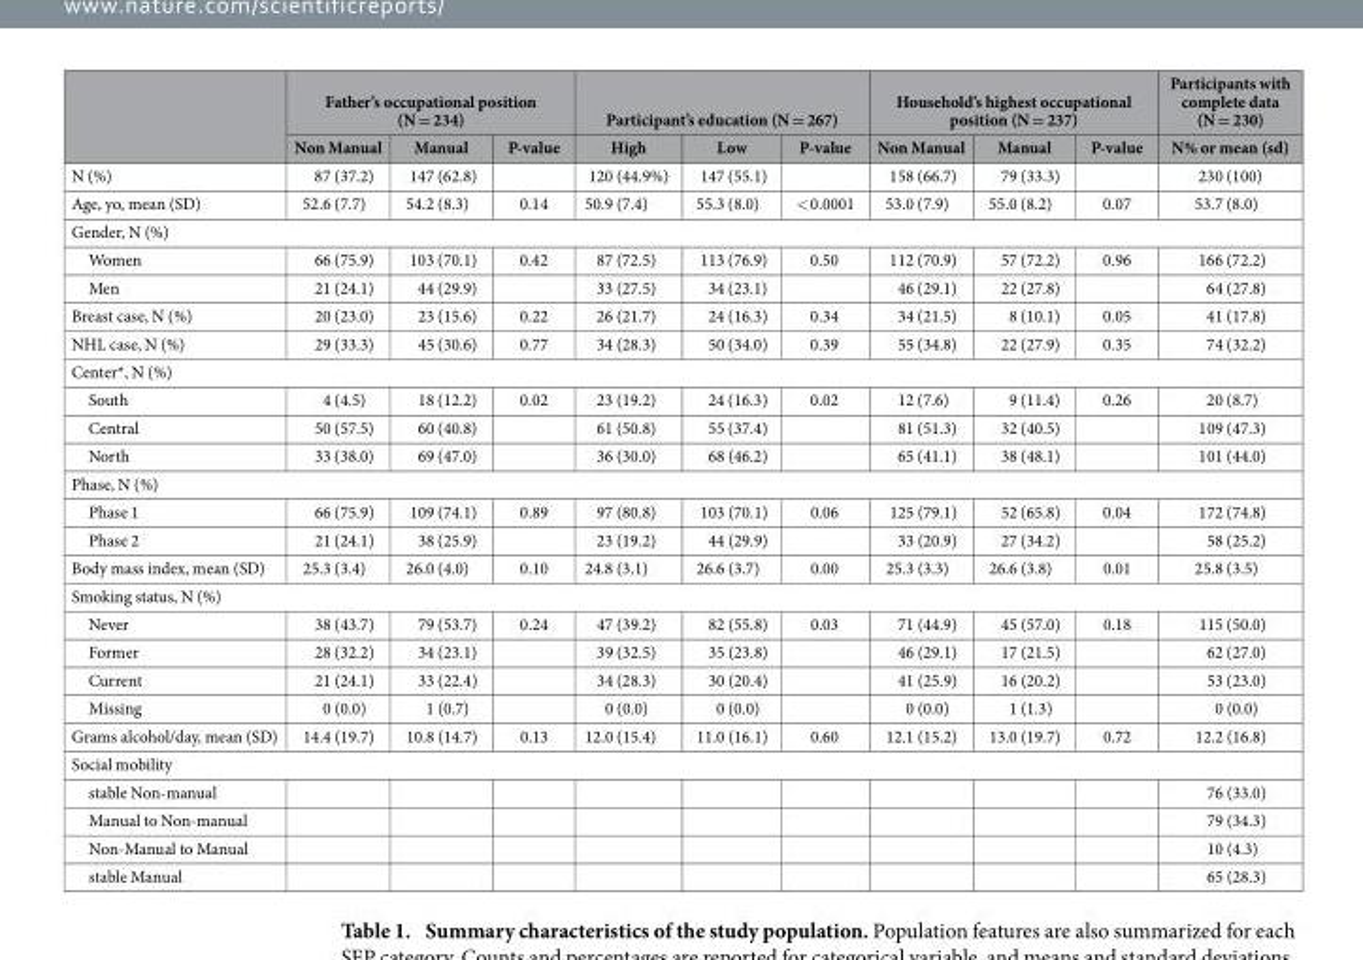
<table><thead><tr><td rowspan="2"></td><td colspan="3">Father’s occupational position (N = 234)</td><td colspan="3">Participant’s education (N = 267)</td><td colspan="3">Household’s highest occupational position (N = 237)</td><td rowspan="2">Participants with complete data (N = 230) N% or mean (sd)</td></tr><tr><td>Non Manual</td><td>Manual</td><td>P-value</td><td>High</td><td>Low</td><td>P-value</td><td>Non Manual</td><td>Manual</td><td>P-value</td></tr></thead><tbody><tr><td>N (%)</td><td>87 (37.2)</td><td>147 (62.8)</td><td></td><td>120 (44.9%)</td><td>147 (55.1)</td><td></td><td>158 (66.7)</td><td>79 (33.3)</td><td></td><td>230 (100)</td></tr><tr><td>Age, yo, mean (SD)</td><td>52.6 (7.7)</td><td>54.2 (8.3)</td><td>0.14</td><td>50.9 (7.4)</td><td>55.3 (8.0)</td><td>&lt; 0.0001</td><td>53.0 (7.9)</td><td>55.0 (8.2)</td><td>0.07</td><td>53.7 (8.0)</td></tr><tr><td colspan="11">Gender, N (%)</td></tr><tr><td>Women</td><td>66 (75.9)</td><td>103 (70.1)</td><td>0.42</td><td>87 (72.5)</td><td>113 (76.9)</td><td>0.50</td><td>112 (70.9)</td><td>57 (72.2)</td><td>0.96</td><td>166 (72.2)</td></tr><tr><td>Men</td><td>21 (24.1)</td><td>44 (29.9)</td><td></td><td>33 (27.5)</td><td>34 (23.1)</td><td></td><td>46 (29.1)</td><td>22 (27.8)</td><td></td><td>64 (27.8)</td></tr><tr><td>Breast case, N (%)</td><td>20 (23.0)</td><td>23 (15.6)</td><td>0.22</td><td>26 (21.7)</td><td>24 (16.3)</td><td>0.34</td><td>34 (21.5)</td><td>8 (10.1)</td><td>0.05</td><td>41 (17.8)</td></tr><tr><td>NHL case, N (%)</td><td>29 (33.3)</td><td>45 (30.6)</td><td>0.77</td><td>34 (28.3)</td><td>50 (34.0)</td><td>0.39</td><td>55 (34.8)</td><td>22 (27.9)</td><td>0.35</td><td>74 (32.2)</td></tr><tr><td colspan="11">Center*, N (%)</td></tr><tr><td>South</td><td>4 (4.5)</td><td>18 (12.2)</td><td>0.02</td><td>23 (19.2)</td><td>24 (16.3)</td><td>0.02</td><td>12 (7.6)</td><td>9 (11.4)</td><td>0.26</td><td>20 (8.7)</td></tr><tr><td>Central</td><td>50 (57.5)</td><td>60 (40.8)</td><td></td><td>61 (50.8)</td><td>55 (37.4)</td><td></td><td>81 (51.3)</td><td>32 (40.5)</td><td></td><td>109 (47.3)</td></tr><tr><td>North</td><td>33 (38.0)</td><td>69 (47.0)</td><td></td><td>36 (30.0)</td><td>68 (46.2)</td><td></td><td>65 (41.1)</td><td>38 (48.1)</td><td></td><td>101 (44.0)</td></tr><tr><td colspan="11">Phase, N (%)</td></tr><tr><td>Phase 1</td><td>66 (75.9)</td><td>109 (74.1)</td><td>0.89</td><td>97 (80.8)</td><td>103 (70.1)</td><td>0.06</td><td>125 (79.1)</td><td>52 (65.8)</td><td>0.04</td><td>172 (74.8)</td></tr><tr><td>Phase 2</td><td>21 (24.1)</td><td>38 (25.9)</td><td></td><td>23 (19.2)</td><td>44 (29.9)</td><td></td><td>33 (20.9)</td><td>27 (34.2)</td><td></td><td>58 (25.2)</td></tr><tr><td>Body mass index, mean (SD)</td><td>25.3 (3.4)</td><td>26.0 (4.0)</td><td>0.10</td><td>24.8 (3.1)</td><td>26.6 (3.7)</td><td>0.00</td><td>25.3 (3.3)</td><td>26.6 (3.8)</td><td>0.01</td><td>25.8 (3.5)</td></tr><tr><td colspan="11">Smoking status, N (%)</td></tr><tr><td>Never</td><td>38 (43.7)</td><td>79 (53.7)</td><td>0.24</td><td>47 (39.2)</td><td>82 (55.8)</td><td>0.03</td><td>71 (44.9)</td><td>45 (57.0)</td><td>0.18</td><td>115 (50.0)</td></tr><tr><td>Former</td><td>28 (32.2)</td><td>34 (23.1)</td><td></td><td>39 (32.5)</td><td>35 (23.8)</td><td></td><td>46 (29.1)</td><td>17 (21.5)</td><td></td><td>62 (27.0)</td></tr><tr><td>Current</td><td>21 (24.1)</td><td>33 (22.4)</td><td></td><td>34 (28.3)</td><td>30 (20.4)</td><td></td><td>41 (25.9)</td><td>16 (20.2)</td><td></td><td>53 (23.0)</td></tr><tr><td>Missing</td><td>0 (0.0)</td><td>1 (0.7)</td><td></td><td>0 (0.0)</td><td>0 (0.0)</td><td></td><td>0 (0.0)</td><td>1 (1.3)</td><td></td><td>0 (0.0)</td></tr><tr><td>Grams alcohol/day, mean (SD)</td><td>14.4 (19.7)</td><td>10.8 (14.7)</td><td>0.13</td><td>12.0 (15.4)</td><td>11.0 (16.1)</td><td>0.60</td><td>12.1 (15.2)</td><td>13.0 (19.7)</td><td>0.72</td><td>12.2 (16.8)</td></tr><tr><td colspan="11">Social mobility</td></tr><tr><td>stable Non-manual</td><td></td><td></td><td></td><td></td><td></td><td></td><td></td><td></td><td></td><td>76 (33.0)</td></tr><tr><td>Manual to Non-manual</td><td></td><td></td><td></td><td></td><td></td><td></td><td></td><td></td><td></td><td>79 (34.3)</td></tr><tr><td>Non-Manual to Manual</td><td></td><td></td><td></td><td></td><td></td><td></td><td></td><td></td><td></td><td>10 (4.3)</td></tr><tr><td>stable Manual</td><td></td><td></td><td></td><td></td><td></td><td></td><td></td><td></td><td></td><td>65 (28.3)</td></tr></tbody></table>